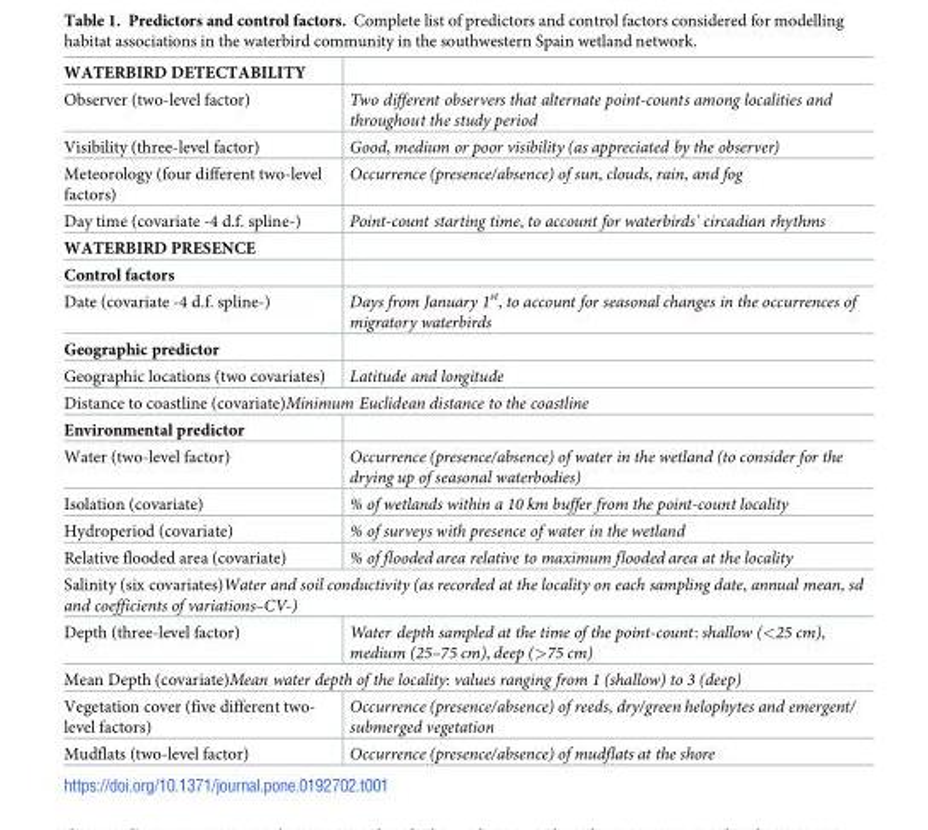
<table><tbody><tr><td colspan="2">WATERBIRD DETECTABILITY</td></tr><tr><td>Observer (two-level factor)</td><td>Two different observers that alternate point-counts among localities and throughout the study period</td></tr><tr><td>Visibility (three-level factor)</td><td>Good, medium or poor visibility (as appreciated by the observer)</td></tr><tr><td>Meteorology (four different two-level factors)</td><td>Occurrence (presence/absence) of sun, clouds, rain, and fog</td></tr><tr><td>Day time (covariate -4 d.f. spline-)</td><td>Point-count starting time, to account for waterbirds&#x27; circadian rhythms</td></tr><tr><td colspan="2">WATERBIRD PRESENCE</td></tr><tr><td colspan="2">Control factors</td></tr><tr><td>Date (covariate -4 d.f. spline-)</td><td>Days from January 1<sup>st</sup>, to account for seasonal changes in the occurrences of migratory waterbirds</td></tr><tr><td colspan="2">Geographic predictor</td></tr><tr><td>Geographic locations (two covariates)</td><td>Latitude and longitude</td></tr><tr><td colspan="2">Distance to coastline (covariate)Minimum Euclidean distance to the coastline</td></tr><tr><td colspan="2">Environmental predictor</td></tr><tr><td>Water (two-level factor)</td><td>Occurrence (presence/absence) of water in the wetland (to consider for the drying up of seasonal waterbodies)</td></tr><tr><td>Isolation (covariate)</td><td>% of wetlands within a 10 km buffer from the point-count locality</td></tr><tr><td>Hydroperiod (covariate)</td><td>% of surveys with presence of water in the wetland</td></tr><tr><td>Relative flooded area (covariate)</td><td>% of flooded area relative to maximum flooded area at the locality</td></tr><tr><td colspan="2">Salinity (six covariates)Water and soil conductivity (as recorded at the locality on each sampling date, annual mean, sd and coefficients of variations–CV-)</td></tr><tr><td>Depth (three-level factor)</td><td>Water depth sampled at the time of the point-count: shallow (&lt;25 cm), medium (25–75 cm), deep (&gt;75 cm)</td></tr><tr><td colspan="2">Mean Depth (covariate)Mean water depth of the locality: values ranging from 1 (shallow) to 3 (deep)</td></tr><tr><td>Vegetation cover (five different two- level factors)</td><td>Occurrence (presence/absence) of reeds, dry/green helophytes and emergent/ submerged vegetation</td></tr><tr><td>Mudflats (two-level factor)</td><td>Occurrence (presence/absence) of mudflats at the shore</td></tr></tbody></table>